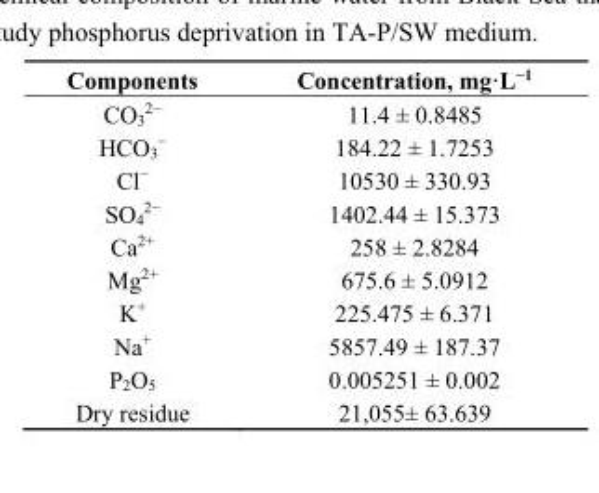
<table><thead><tr><td>Components</td><td>Concentration, mg·L<sup>−1</sup></td></tr></thead><tbody><tr><td>CO<sub>3</sub><sup>2−</sup></td><td>11.4 ± 0.8485</td></tr><tr><td>НСО<sub>3</sub><sup>−</sup></td><td>184.22 ± 1.7253</td></tr><tr><td>Cl<sup>−</sup></td><td>10530 ± 330.93</td></tr><tr><td>SO<sub>4</sub><sup>2−</sup></td><td>1402.44 ± 15.373</td></tr><tr><td>Ca<sup>2+</sup></td><td>258 ± 2.8284</td></tr><tr><td>Mg<sup>2+</sup></td><td>675.6 ± 5.0912</td></tr><tr><td>K<sup>+</sup></td><td>225.475 ± 6.371</td></tr><tr><td>Na<sup>+</sup></td><td>5857.49 ± 187.37</td></tr><tr><td>P<sub>2</sub>O<sub>5</sub></td><td>0.005251 ± 0.002</td></tr><tr><td>Dry residue</td><td>21,055± 63.639</td></tr></tbody></table>